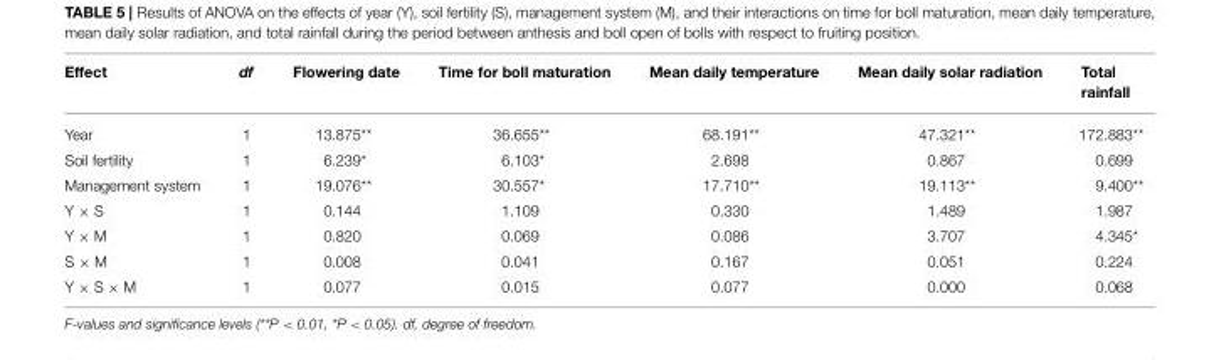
<table><thead><tr><td>Effect</td><td>df</td><td>Flowering date</td><td>Time for boll maturation</td><td>Mean daily temperature</td><td>Mean daily solar radiation</td><td>Total rainfall</td></tr></thead><tbody><tr><td>Year</td><td>1</td><td>13.875**</td><td>36.655**</td><td>68.191**</td><td>47.321**</td><td>172.883**</td></tr><tr><td>Soil fertility</td><td>1</td><td>6.239*</td><td>6.103*</td><td>2.698</td><td>0.867</td><td>0.699</td></tr><tr><td>Management system</td><td>1</td><td>19.076**</td><td>30.557*</td><td>17.710**</td><td>19.113**</td><td>9.400**</td></tr><tr><td>Y × S</td><td>1</td><td>0.144</td><td>1.109</td><td>0.330</td><td>1.489</td><td>1.987</td></tr><tr><td>Y × M</td><td>1</td><td>0.820</td><td>0.069</td><td>0.086</td><td>3.707</td><td>4.345*</td></tr><tr><td>S × M</td><td>1</td><td>0.008</td><td>0.041</td><td>0.167</td><td>0.051</td><td>0.224</td></tr><tr><td>Y × S × M</td><td>1</td><td>0.077</td><td>0.015</td><td>0.077</td><td>0.000</td><td>0.068</td></tr></tbody></table>